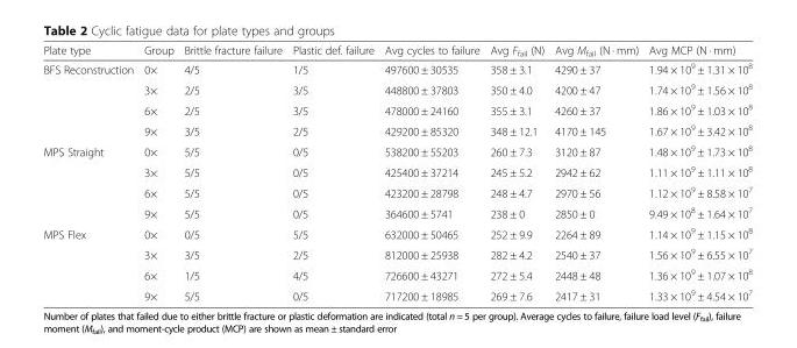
<table><thead><tr><td>Plate type</td><td>Group</td><td>Brittle fracture failure</td><td>Plastic def. failure</td><td>Avg cycles to failure</td><td>Avg F<sub>fail</sub> (N)</td><td>Avg M<sub>fail</sub> (N · mm)</td><td>Avg MCP (N · mm)</td></tr></thead><tbody><tr><td rowspan="4">BFS Reconstruction</td><td>0×</td><td>4/5</td><td>1/5</td><td>497600 ± 30535</td><td>358 ± 3.1</td><td>4290 ± 37</td><td>1.94 × 10<sup>9</sup> ± 1.31 × 10<sup>8</sup></td></tr><tr><td>3×</td><td>2/5</td><td>3/5</td><td>448800 ± 37803</td><td>350 ± 4.0</td><td>4200 ± 47</td><td>1.74 × 10<sup>9</sup> ± 1.56 × 10<sup>8</sup></td></tr><tr><td>6×</td><td>2/5</td><td>3/5</td><td>478000 ± 24160</td><td>355 ± 3.1</td><td>4260 ± 37</td><td>1.86 × 10<sup>9</sup> ± 1.03 × 10<sup>8</sup></td></tr><tr><td>9×</td><td>3/5</td><td>2/5</td><td>429200 ± 85320</td><td>348 ± 12.1</td><td>4170 ± 145</td><td>1.67 × 10<sup>9</sup> ± 3.42 × 10<sup>8</sup></td></tr><tr><td rowspan="4">MPS Straight</td><td>0×</td><td>5/5</td><td>0/5</td><td>538200 ± 55203</td><td>260 ± 7.3</td><td>3120 ± 87</td><td>1.48 × 10<sup>9</sup> ± 1.73 × 10<sup>8</sup></td></tr><tr><td>3×</td><td>5/5</td><td>0/5</td><td>425400 ± 37214</td><td>245 ± 5.2</td><td>2942 ± 62</td><td>1.11 × 10<sup>9</sup> ± 1.11 × 10<sup>8</sup></td></tr><tr><td>6×</td><td>5/5</td><td>0/5</td><td>423200 ± 28798</td><td>248 ± 4.7</td><td>2970 ± 56</td><td>1.12 × 10<sup>9</sup> ± 8.58 × 10<sup>7</sup></td></tr><tr><td>9×</td><td>5/5</td><td>0/5</td><td>364600 ± 5741</td><td>238 ± 0</td><td>2850 ± 0</td><td>9.49 × 10<sup>8</sup> ± 1.64 × 10<sup>7</sup></td></tr><tr><td rowspan="4">MPS Flex</td><td>0×</td><td>0/5</td><td>5/5</td><td>632000 ± 50465</td><td>252 ± 9.9</td><td>2264 ± 89</td><td>1.14 × 10<sup>9</sup> ± 1.15 × 10<sup>8</sup></td></tr><tr><td>3×</td><td>3/5</td><td>2/5</td><td>812000 ± 25938</td><td>282 ± 4.2</td><td>2540 ± 37</td><td>1.56 × 10<sup>9</sup> ± 6.55 × 10<sup>7</sup></td></tr><tr><td>6×</td><td>1/5</td><td>4/5</td><td>726600 ± 43271</td><td>272 ± 5.4</td><td>2448 ± 48</td><td>1.36 × 10<sup>9</sup> ± 1.07 × 10<sup>8</sup></td></tr><tr><td>9×</td><td>5/5</td><td>0/5</td><td>717200 ± 18985</td><td>269 ± 7.6</td><td>2417 ± 31</td><td>1.33 × 10<sup>9</sup> ± 4.54 × 10<sup>7</sup></td></tr></tbody></table>